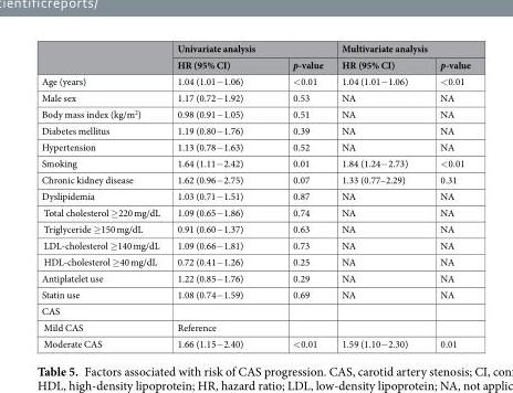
<table><thead><tr><td rowspan="2"></td><td colspan="2">Univariate analysis</td><td colspan="2">Multivariate analysis</td></tr><tr><td>HR (95% CI)</td><td>p-value</td><td>HR (95% CI)</td><td>p-value</td></tr></thead><tbody><tr><td>Age (years)</td><td>1.04 (1.01−1.06)</td><td>&lt;0.01</td><td>1.04 (1.01−1.06)</td><td>&lt;0.01</td></tr><tr><td>Male sex</td><td>1.17 (0.72−1.92)</td><td>0.53</td><td>NA</td><td>NA</td></tr><tr><td>Body mass index (kg/m<sup>2</sup>)</td><td>0.98 (0.91−1.05)</td><td>0.51</td><td>NA</td><td>NA</td></tr><tr><td>Diabetes mellitus</td><td>1.19 (0.80−1.76)</td><td>0.39</td><td>NA</td><td>NA</td></tr><tr><td>Hypertension</td><td>1.13 (0.78−1.63)</td><td>0.52</td><td>NA</td><td>NA</td></tr><tr><td>Smoking</td><td>1.64 (1.11−2.42)</td><td>0.01</td><td>1.84 (1.24−2.73)</td><td>&lt;0.01</td></tr><tr><td>Chronic kidney disease</td><td>1.62 (0.96−2.75)</td><td>0.07</td><td>1.33 (0.77–2.29)</td><td>0.31</td></tr><tr><td>Dyslipidemia</td><td>1.03 (0.71−1.51)</td><td>0.87</td><td>NA</td><td>NA</td></tr><tr><td>Total cholesterol ≥220 mg/dL</td><td>1.09 (0.65−1.86)</td><td>0.74</td><td>NA</td><td>NA</td></tr><tr><td>Triglyceride ≥150 mg/dL</td><td>0.91 (0.60−1.37)</td><td>0.63</td><td>NA</td><td>NA</td></tr><tr><td>LDL-cholesterol ≥140 mg/dL</td><td>1.09 (0.66−1.81)</td><td>0.73</td><td>NA</td><td>NA</td></tr><tr><td>HDL-cholesterol ≥40 mg/dL</td><td>0.72 (0.41−1.26)</td><td>0.25</td><td>NA</td><td>NA</td></tr><tr><td>Antiplatelet use</td><td>1.22 (0.85−1.76)</td><td>0.29</td><td>NA</td><td>NA</td></tr><tr><td>Statin use</td><td>1.08 (0.74−1.59)</td><td>0.69</td><td>NA</td><td>NA</td></tr><tr><td colspan="5">CAS</td></tr><tr><td>Mild CAS</td><td>Reference</td><td></td><td></td><td></td></tr><tr><td>Moderate CAS</td><td>1.66 (1.15−2.40)</td><td>&lt;0.01</td><td>1.59 (1.10−2.30)</td><td>0.01</td></tr></tbody></table>